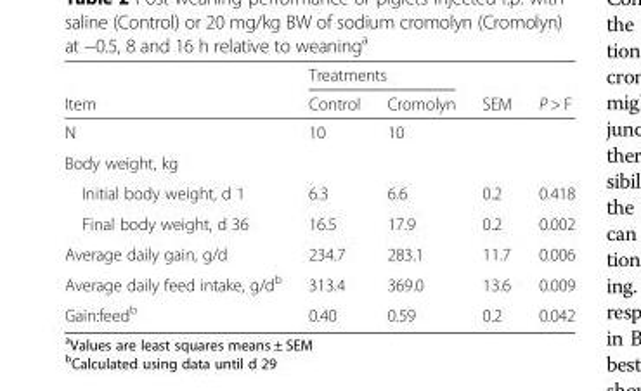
<table><thead><tr><td rowspan="2">Item</td><td colspan="2">Treatments</td><td rowspan="2">SEM</td><td rowspan="2">P &gt; F</td></tr><tr><td>Control</td><td>Cromolyn</td></tr></thead><tbody><tr><td>N</td><td>10</td><td>10</td><td></td><td></td></tr><tr><td colspan="5">Body weight, kg</td></tr><tr><td>Initial body weight, d 1</td><td>6.3</td><td>6.6</td><td>0.2</td><td>0.418</td></tr><tr><td>Final body weight, d 36</td><td>16.5</td><td>17.9</td><td>0.2</td><td>0.002</td></tr><tr><td>Average daily gain, g/d</td><td>234.7</td><td>283.1</td><td>11.7</td><td>0.006</td></tr><tr><td>Average daily feed intake, g/d<sup>b</sup></td><td>313.4</td><td>369.0</td><td>13.6</td><td>0.009</td></tr><tr><td>Gain:feed<sup>b</sup></td><td>0.40</td><td>0.59</td><td>0.2</td><td>0.042</td></tr></tbody></table>